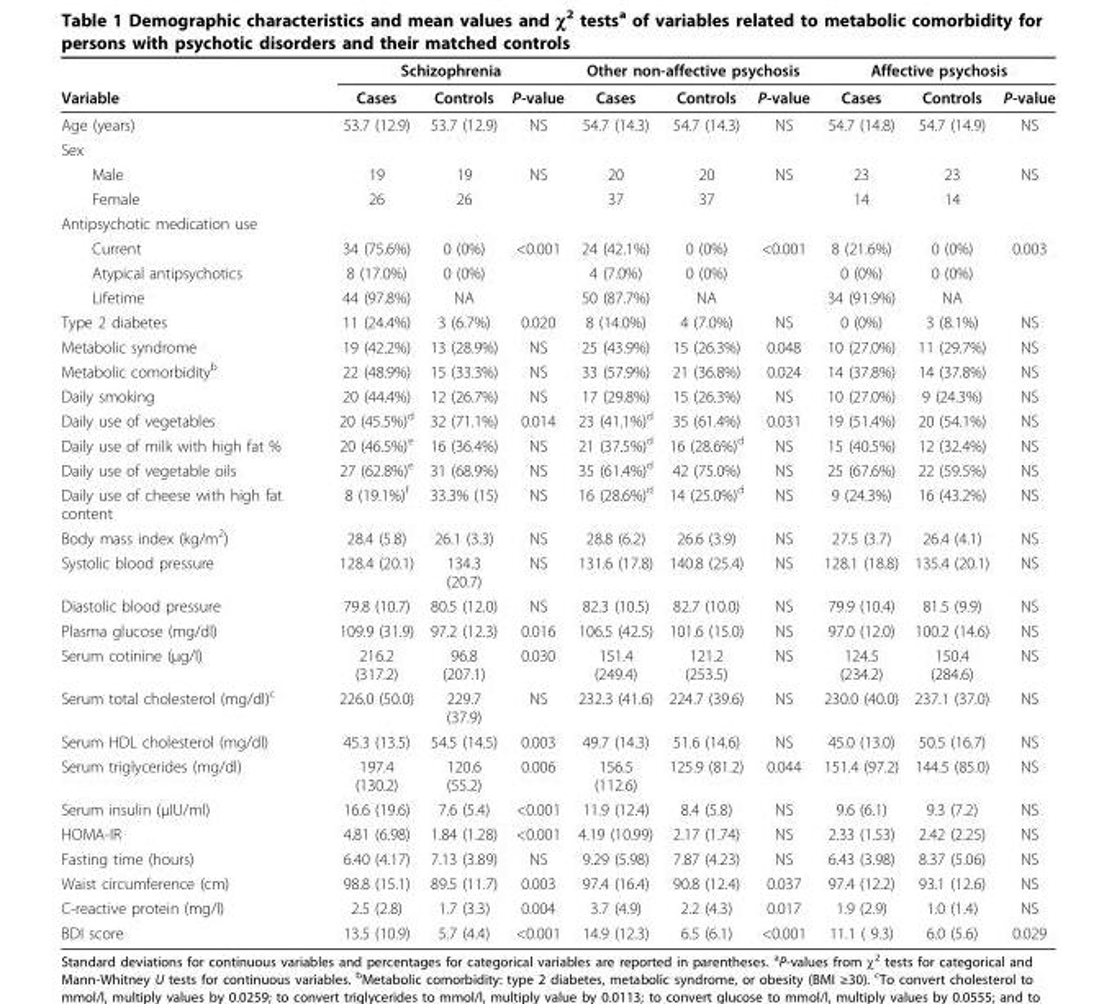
<table><thead><tr><td rowspan="2">Variable</td><td colspan="3">Schizophrenia</td><td colspan="3">Other non-affective psychosis</td><td colspan="3">Affective psychosis</td></tr><tr><td>Cases</td><td>Controls</td><td>P-value</td><td>Cases</td><td>Controls</td><td>P-value</td><td>Cases</td><td>Controls</td><td>P-value</td></tr></thead><tbody><tr><td>Age (years)</td><td>53.7 (12.9)</td><td>53.7 (12.9)</td><td>NS</td><td>54.7 (14.3)</td><td>54.7 (14.3)</td><td>NS</td><td>54.7 (14.8)</td><td>54.7 (14.9)</td><td>NS</td></tr><tr><td colspan="10">Sex</td></tr><tr><td>Male</td><td>19</td><td>19</td><td>NS</td><td>20</td><td>20</td><td>NS</td><td>23</td><td>23</td><td>NS</td></tr><tr><td>Female</td><td>26</td><td>26</td><td></td><td>37</td><td>37</td><td></td><td>14</td><td>14</td><td></td></tr><tr><td colspan="10">Antipsychotic medication use</td></tr><tr><td>Current</td><td>34 (75.6%)</td><td>0 (0%)</td><td>&lt;0.001</td><td>24 (42.1%)</td><td>0 (0%)</td><td>&lt;0.001</td><td>8 (21.6%)</td><td>0 (0%)</td><td>0.003</td></tr><tr><td>Atypical antipsychotics</td><td>8 (17.0%)</td><td>0 (0%)</td><td></td><td>4 (7.0%)</td><td>0 (0%)</td><td></td><td>0 (0%)</td><td>0 (0%)</td><td></td></tr><tr><td>Lifetime</td><td>44 (97.8%)</td><td>NA</td><td></td><td>50 (87.7%)</td><td>NA</td><td></td><td>34 (91.9%)</td><td>NA</td><td></td></tr><tr><td>Type 2 diabetes</td><td>11 (24.4%)</td><td>3 (6.7%)</td><td>0.020</td><td>8 (14.0%)</td><td>4 (7.0%)</td><td>NS</td><td>0 (0%)</td><td>3 (8.1%)</td><td>NS</td></tr><tr><td>Metabolic syndrome</td><td>19 (42.2%)</td><td>13 (28.9%)</td><td>NS</td><td>25 (43.9%)</td><td>15 (26.3%)</td><td>0.048</td><td>10 (27.0%)</td><td>11 (29.7%)</td><td>NS</td></tr><tr><td>Metabolic comorbidity<sup>b</sup></td><td>22 (48.9%)</td><td>15 (33.3%)</td><td>NS</td><td>33 (57.9%)</td><td>21 (36.8%)</td><td>0.024</td><td>14 (37.8%)</td><td>14 (37.8%)</td><td>NS</td></tr><tr><td>Daily smoking</td><td>20 (44.4%)</td><td>12 (26.7%)</td><td>NS</td><td>17 (29.8%)</td><td>15 (26.3%)</td><td>NS</td><td>10 (27.0%)</td><td>9 (24.3%)</td><td>NS</td></tr><tr><td>Daily use of vegetables</td><td>20 (45.5%)<sup>d</sup></td><td>32 (71.1%)</td><td>0.014</td><td>23 (41.1%)<sup>d</sup></td><td>35 (61.4%)</td><td>0.031</td><td>19 (51.4%)</td><td>20 (54.1%)</td><td>NS</td></tr><tr><td>Daily use of milk with high fat %</td><td>20 (46.5%)<sup>e</sup></td><td>16 (36.4%)</td><td>NS</td><td>21 (37.5%)<sup>d</sup></td><td>16 (28.6%)<sup>d</sup></td><td>NS</td><td>15 (40.5%)</td><td>12 (32.4%)</td><td>NS</td></tr><tr><td>Daily use of vegetable oils</td><td>27 (62.8%)<sup>e</sup></td><td>31 (68.9%)</td><td>NS</td><td>35 (61.4%)<sup>d</sup></td><td>42 (75.0%)</td><td>NS</td><td>25 (67.6%)</td><td>22 (59.5%)</td><td>NS</td></tr><tr><td>Daily use of cheese with high fat content</td><td>8 (19.1%)<sup>f</sup></td><td>33.3% (15)</td><td>NS</td><td>16 (28.6%)<sup>d</sup></td><td>14 (25.0%)<sup>d</sup></td><td>NS</td><td>9 (24.3%)</td><td>16 (43.2%)</td><td>NS</td></tr><tr><td>Body mass index (kg/m<sup>2</sup>)</td><td>28.4 (5.8)</td><td>26.1 (3.3)</td><td>NS</td><td>28.8 (6.2)</td><td>26.6 (3.9)</td><td>NS</td><td>27.5 (3.7)</td><td>26.4 (4.1)</td><td>NS</td></tr><tr><td>Systolic blood pressure</td><td>128.4 (20.1)</td><td>134.3 (20.7)</td><td>NS</td><td>131.6 (17.8)</td><td>140.8 (25.4)</td><td>NS</td><td>128.1 (18.8)</td><td>135.4 (20.1)</td><td>NS</td></tr><tr><td>Diastolic blood pressure</td><td>79.8 (10.7)</td><td>80.5 (12.0)</td><td>NS</td><td>82.3 (10.5)</td><td>82.7 (10.0)</td><td>NS</td><td>79.9 (10.4)</td><td>81.5 (9.9)</td><td>NS</td></tr><tr><td>Plasma glucose (mg/dl)</td><td>109.9 (31.9)</td><td>97.2 (12.3)</td><td>0.016</td><td>106.5 (42.5)</td><td>101.6 (15.0)</td><td>NS</td><td>97.0 (12.0)</td><td>100.2 (14.6)</td><td>NS</td></tr><tr><td>Serum cotinine (μg/l)</td><td>216.2 (317.2)</td><td>96.8 (207.1)</td><td>0.030</td><td>151.4 (249.4)</td><td>121.2 (253.5)</td><td>NS</td><td>124.5 (234.2)</td><td>150.4 (284.6)</td><td>NS</td></tr><tr><td>Serum total cholesterol (mg/dl)<sup>c</sup></td><td>226.0 (50.0)</td><td>229.7 (37.9)</td><td>NS</td><td>232.3 (41.6)</td><td>224.7 (39.6)</td><td>NS</td><td>230.0 (40.0)</td><td>237.1 (37.0)</td><td>NS</td></tr><tr><td>Serum HDL cholesterol (mg/dl)</td><td>45.3 (13.5)</td><td>54.5 (14.5)</td><td>0.003</td><td>49.7 (14.3)</td><td>51.6 (14.6)</td><td>NS</td><td>45.0 (13.0)</td><td>50.5 (16.7)</td><td>NS</td></tr><tr><td>Serum triglycerides (mg/dl)</td><td>197.4 (130.2)</td><td>120.6 (55.2)</td><td>0.006</td><td>156.5 (112.6)</td><td>125.9 (81.2)</td><td>0.044</td><td>151.4 (97.2)</td><td>144.5 (85.0)</td><td>NS</td></tr><tr><td>Serum insulin (μIU/ml)</td><td>16.6 (19.6)</td><td>7.6 (5.4)</td><td>&lt;0.001</td><td>11.9 (12.4)</td><td>8.4 (5.8)</td><td>NS</td><td>9.6 (6.1)</td><td>9.3 (7.2)</td><td>NS</td></tr><tr><td>HOMA-IR</td><td>4.81 (6.98)</td><td>1.84 (1.28)</td><td>&lt;0.001</td><td>4.19 (10.99)</td><td>2.17 (1.74)</td><td>NS</td><td>2.33 (1.53)</td><td>2.42 (2.25)</td><td>NS</td></tr><tr><td>Fasting time (hours)</td><td>6.40 (4.17)</td><td>7.13 (3.89)</td><td>NS</td><td>9.29 (5.98)</td><td>7.87 (4.23)</td><td>NS</td><td>6.43 (3.98)</td><td>8.37 (5.06)</td><td>NS</td></tr><tr><td>Waist circumference (cm)</td><td>98.8 (15.1)</td><td>89.5 (11.7)</td><td>0.003</td><td>97.4 (16.4)</td><td>90.8 (12.4)</td><td>0.037</td><td>97.4 (12.2)</td><td>93.1 (12.6)</td><td>NS</td></tr><tr><td>C-reactive protein (mg/l)</td><td>2.5 (2.8)</td><td>1.7 (3.3)</td><td>0.004</td><td>3.7 (4.9)</td><td>2.2 (4.3)</td><td>0.017</td><td>1.9 (2.9)</td><td>1.0 (1.4)</td><td>NS</td></tr><tr><td>BDI score</td><td>13.5 (10.9)</td><td>5.7 (4.4)</td><td>&lt;0.001</td><td>14.9 (12.3)</td><td>6.5 (6.1)</td><td>&lt;0.001</td><td>11.1 ( 9.3)</td><td>6.0 (5.6)</td><td>0.029</td></tr></tbody></table>